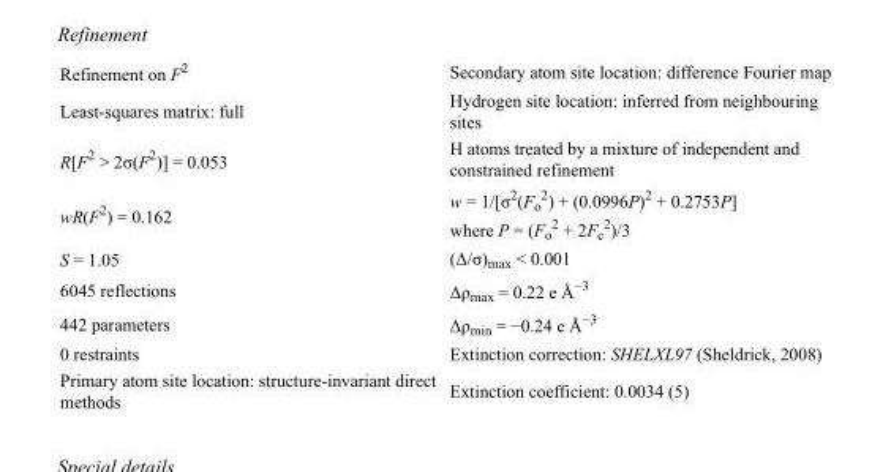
<table><tbody><tr><td>Refinement on F<sup>2</sup></td><td>Secondary atom site location: difference Fourier map</td></tr><tr><td>Least-squares matrix: full</td><td>Hydrogen site location: inferred from neighbouring sites</td></tr><tr><td>R[F<sup>2</sup> &gt; 2σ(F<sup>2</sup>)] = 0.053</td><td>H atoms treated by a mixture of independent and constrained refinement</td></tr><tr><td>wR(F<sup>2</sup>) = 0.162</td><td>w = 1/[σ<sup>2</sup>(F<sub>o</sub> <sup>2</sup>) + (0.0996P)<sup>2</sup> + 0.2753P] where P = (F<sub>o</sub> <sup>2</sup> + 2F<sub>c</sub> <sup>2</sup>)/3</td></tr><tr><td>S = 1.05</td><td>(Δ/σ)<sub>max</sub> &lt; 0.001</td></tr><tr><td>6045 reflections</td><td>Δρ<sub>max</sub> = 0.22 e Å<sup>−3</sup></td></tr><tr><td>442 parameters</td><td>Δρ<sub>min</sub> = −0.24 e Å<sup>−3</sup></td></tr><tr><td>0 restraints</td><td>Extinction correction: SHELXL97 (Sheldrick, 2008)</td></tr><tr><td>Primary atom site location: structure-invariant direct methods</td><td>Extinction coefficient: 0.0034 (5)</td></tr></tbody></table>